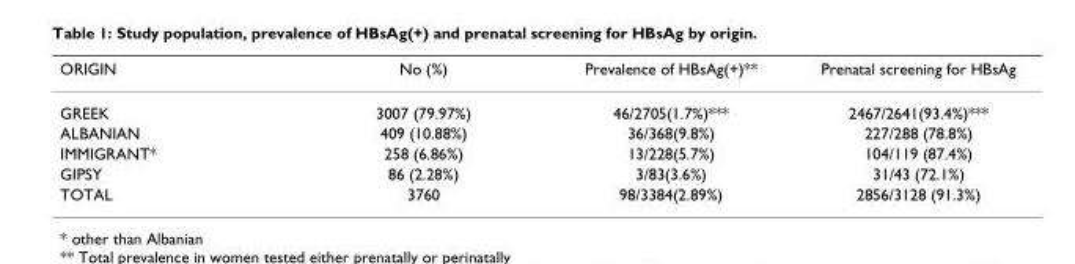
<table><thead><tr><td>ORIGIN</td><td>No (%)</td><td>Prevalence of HBsAg(+)**</td><td>Prenatal screening for HBsAg</td></tr></thead><tbody><tr><td>GREEK</td><td>3007 (79.97%)</td><td>46/2705(1.7%)***</td><td>2467/2641(93.4%)***</td></tr><tr><td>ALBANIAN</td><td>409 (10.88%)</td><td>36/368(9.8%)</td><td>227/288 (78.8%)</td></tr><tr><td>IMMIGRANT*</td><td>258 (6.86%)</td><td>13/228(5.7%)</td><td>104/119 (87.4%)</td></tr><tr><td>GIPSY</td><td>86 (2.28%)</td><td>3/83(3.6%)</td><td>31/43 (72.1%)</td></tr><tr><td>TOTAL</td><td>3760</td><td>98/3384(2.89%)</td><td>2856/3128 (91.3%)</td></tr></tbody></table>